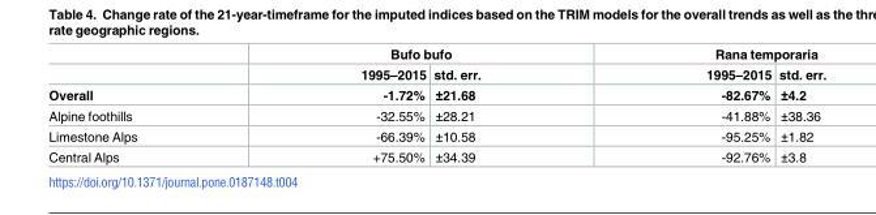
<table><thead><tr><td rowspan="2"></td><td colspan="2">Bufo bufo</td><td colspan="2">Rana temporaria</td></tr><tr><td>1995–2015</td><td>std. err.</td><td>1995–2015</td><td>std. err.</td></tr></thead><tbody><tr><td>Overall</td><td>-1.72%</td><td>±21.68</td><td>-82.67%</td><td>±4.2</td></tr><tr><td>Alpine foothills</td><td>-32.55%</td><td>±28.21</td><td>-41.88%</td><td>±38.36</td></tr><tr><td>Limestone Alps</td><td>-66.39%</td><td>±10.58</td><td>-95.25%</td><td>±1.82</td></tr><tr><td>Central Alps</td><td>+75.50%</td><td>±34.39</td><td>-92.76%</td><td>±3.8</td></tr></tbody></table>